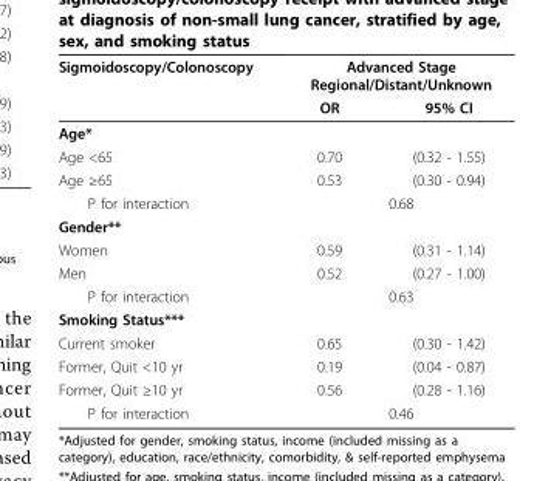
<table><thead><tr><td rowspan="2">Sigmoidoscopy/Colonoscopy</td><td colspan="2">Advanced Stage Regional/Distant/Unknown</td></tr><tr><td>OR</td><td>95% CI</td></tr></thead><tbody><tr><td colspan="3">Age*</td></tr><tr><td>Age &lt;65</td><td>0.70</td><td>(0.32 - 1.55)</td></tr><tr><td>Age ≥65</td><td>0.53</td><td>(0.30 - 0.94)</td></tr><tr><td>P for interaction</td><td colspan="2">0.68</td></tr><tr><td colspan="3">Gender**</td></tr><tr><td>Women</td><td>0.59</td><td>(0.31 - 1.14)</td></tr><tr><td>Men</td><td>0.52</td><td>(0.27 - 1.00)</td></tr><tr><td>P for interaction</td><td colspan="2">0.63</td></tr><tr><td colspan="3">Smoking Status***</td></tr><tr><td>Current smoker</td><td>0.65</td><td>(0.30 - 1.42)</td></tr><tr><td>Former, Quit &lt;10 yr</td><td>0.19</td><td>(0.04 - 0.87)</td></tr><tr><td>Former, Quit ≥10 yr</td><td>0.56</td><td>(0.28 - 1.16)</td></tr><tr><td>P for interaction</td><td colspan="2">0.46</td></tr></tbody></table>